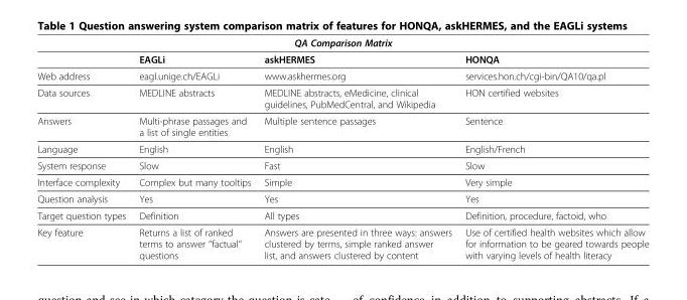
<table><thead><tr><td colspan="4">QA Comparison Matrix</td></tr><tr><td></td><td>EAGLi</td><td>askHERMES</td><td>HONQA</td></tr></thead><tbody><tr><td>Web address</td><td>eagl.unige.ch/EAGLi</td><td>www.askhermes.org</td><td>services.hon.ch/cgi-bin/QA10/qa.pl</td></tr><tr><td>Data sources</td><td>MEDLINE abstracts</td><td>MEDLINE abstracts, eMedicine, clinical guidelines, PubMedCentral, and Wikipedia</td><td>HON certified websites</td></tr><tr><td>Answers</td><td>Multi-phrase passages and a list of single entities</td><td>Multiple sentence passages</td><td>Sentence</td></tr><tr><td>Language</td><td>English</td><td>English</td><td>English/French</td></tr><tr><td>System response</td><td>Slow</td><td>Fast</td><td>Slow</td></tr><tr><td>Interface complexity</td><td>Complex but many tooltips</td><td>Simple</td><td>Very simple</td></tr><tr><td>Question analysis</td><td>Yes</td><td>Yes</td><td>Yes</td></tr><tr><td>Target question types</td><td>Definition</td><td>All types</td><td>Definition, procedure, factoid, who</td></tr><tr><td>Key feature</td><td>Returns a list of ranked terms to answer ‘‘factual‘’ questions</td><td>Answers are presented in three ways: answers clustered by terms, simple ranked answer list, and answers clustered by content</td><td>Use of certified health websites which allow for information to be geared towards people with varying levels of health literacy</td></tr></tbody></table>